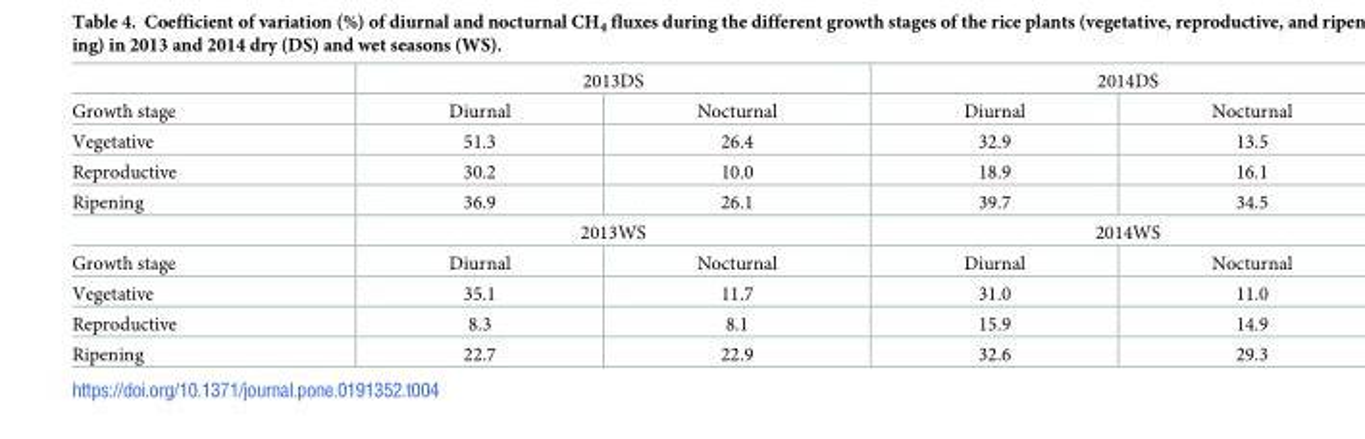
<table><thead><tr><td rowspan="2">Growth stage</td><td colspan="2">2013DS</td><td colspan="2">2014DS</td></tr><tr><td>Diurnal</td><td>Nocturnal</td><td>Diurnal</td><td>Nocturnal</td></tr></thead><tbody><tr><td>Vegetative</td><td>51.3</td><td>26.4</td><td>32.9</td><td>13.5</td></tr><tr><td>Reproductive</td><td>30.2</td><td>10.0</td><td>18.9</td><td>16.1</td></tr><tr><td rowspan="2">Ripening</td><td>36.9</td><td>26.1</td><td>39.7</td><td>34.5</td></tr><tr><td colspan="2">2013WS</td><td colspan="2">2014WS</td></tr><tr><td>Growth stage</td><td>Diurnal</td><td>Nocturnal</td><td>Diurnal</td><td>Nocturnal</td></tr><tr><td>Vegetative</td><td>35.1</td><td>11.7</td><td>31.0</td><td>11.0</td></tr><tr><td>Reproductive</td><td>8.3</td><td>8.1</td><td>15.9</td><td>14.9</td></tr><tr><td>Ripening</td><td>22.7</td><td>22.9</td><td>32.6</td><td>29.3</td></tr></tbody></table>